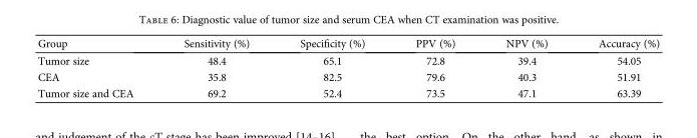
<table><thead><tr><td>Group</td><td>Sensitivity (%)</td><td>Specificity (%)</td><td>PPV (%)</td><td>NPV (%)</td><td>Accuracy (%)</td></tr></thead><tbody><tr><td>Tumor size</td><td>48.4</td><td>65.1</td><td>72.8</td><td>39.4</td><td>54.05</td></tr><tr><td>CEA</td><td>35.8</td><td>82.5</td><td>79.6</td><td>40.3</td><td>51.91</td></tr><tr><td>Tumor size and CEA</td><td>69.2</td><td>52.4</td><td>73.5</td><td>47.1</td><td>63.39</td></tr></tbody></table>